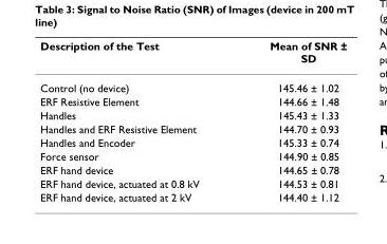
<table><thead><tr><td>Description of the Test</td><td>Mean of SNR ± SD</td></tr></thead><tbody><tr><td>Control (no device)</td><td>145.46 ± 1.02</td></tr><tr><td>ERF Resistive Element</td><td>144.66 ± 1.48</td></tr><tr><td>Handles</td><td>145.43 ± 1.33</td></tr><tr><td>Handles and ERF Resistive Element</td><td>144.70 ± 0.93</td></tr><tr><td>Handles and Encoder</td><td>145.33 ± 0.74</td></tr><tr><td>Force sensor</td><td>144.90 ± 0.85</td></tr><tr><td>ERF hand device</td><td>144.65 ± 0.78</td></tr><tr><td>ERF hand device, actuated at 0.8 kV</td><td>144.53 ± 0.81</td></tr><tr><td>ERF hand device, actuated at 2 kV</td><td>144.40 ± 1.12</td></tr></tbody></table>